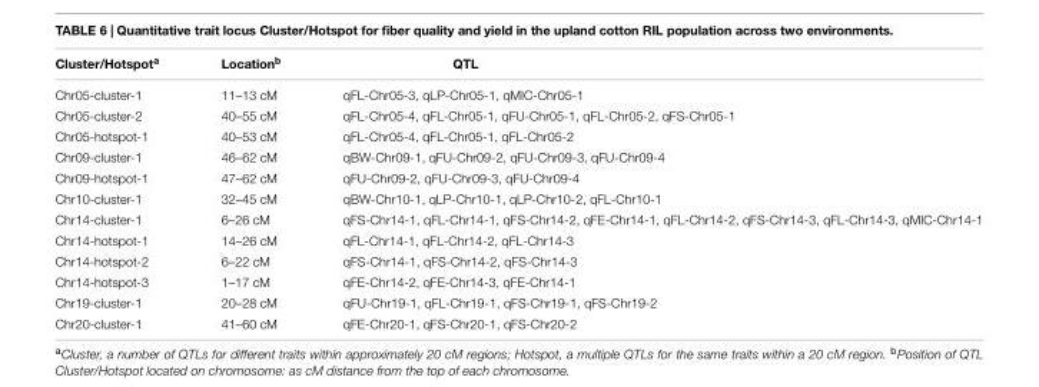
<table><thead><tr><td>Cluster/Hotspot<sup>a</sup></td><td>Location<sup>b</sup></td><td>QTL</td></tr></thead><tbody><tr><td>Chr05-cluster-1</td><td>11–13 cM</td><td>qFL-Chr05-3, qLP-Chr05-1, qMIC-Chr05-1</td></tr><tr><td>Chr05-cluster-2</td><td>40–55 cM</td><td>qFL-Chr05-4, qFL-Chr05-1, qFU-Chr05-1, qFL-Chr05-2, qFS-Chr05-1</td></tr><tr><td>Chr05-hotspot-1</td><td>40–53 cM</td><td>qFL-Chr05-4, qFL-Chr05-1, qFL-Chr05-2</td></tr><tr><td>Chr09-cluster-1</td><td>46–62 cM</td><td>qBW-Chr09-1, qFU-Chr09-2, qFU-Chr09-3, qFU-Chr09-4</td></tr><tr><td>Chr09-hotspot-1</td><td>47–62 cM</td><td>qFU-Chr09-2, qFU-Chr09-3, qFU-Chr09-4</td></tr><tr><td>Chr10-cluster-1</td><td>32–45 cM</td><td>qBW-Chr10-1, qLP-Chr10-1, qLP-Chr10-2, qFL-Chr10-1</td></tr><tr><td>Chr14-cluster-1</td><td>6–26 cM</td><td>qFS-Chr14-1, qFL-Chr14-1, qFS-Chr14-2, qFE-Chr14-1, qFL-Chr14-2, qFS-Chr14-3, qFL-Chr14-3, qMIC-Chr14-1</td></tr><tr><td>Chr14-hotspot-1</td><td>14–26 cM</td><td>qFL-Chr14-1, qFL-Chr14-2, qFL-Chr14-3</td></tr><tr><td>Chr14-hotspot-2</td><td>6–22 cM</td><td>qFS-Chr14-1, qFS-Chr14-2, qFS-Chr14-3</td></tr><tr><td>Chr14-hotspot-3</td><td>1–17 cM</td><td>qFE-Chr14-2, qFE-Chr14-3, qFE-Chr14-1</td></tr><tr><td>Chr19-cluster-1</td><td>20–28 cM</td><td>qFU-Chr19-1, qFL-Chr19-1, qFS-Chr19-1, qFS-Chr19-2</td></tr><tr><td>Chr20-cluster-1</td><td>41–60 cM</td><td>qFE-Chr20-1, qFS-Chr20-1, qFS-Chr20-2</td></tr></tbody></table>